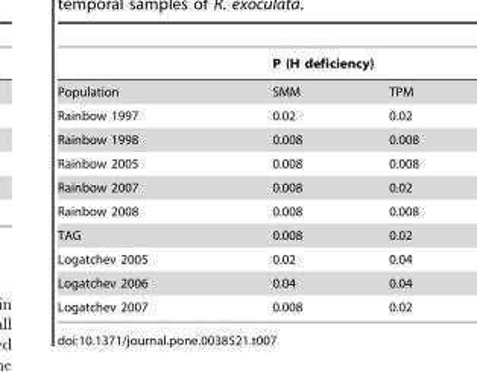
<table><thead><tr><td rowspan="2">Population</td><td colspan="2">P (H deficiency)</td></tr><tr><td>SMM</td><td>TPM</td></tr></thead><tbody><tr><td>Rainbow 1997</td><td>0.02</td><td>0.02</td></tr><tr><td>Rainbow 1998</td><td>0.008</td><td>0.008</td></tr><tr><td>Rainbow 2005</td><td>0.008</td><td>0.008</td></tr><tr><td>Rainbow 2007</td><td>0.008</td><td>0.02</td></tr><tr><td>Rainbow 2008</td><td>0.008</td><td>0.008</td></tr><tr><td>TAG</td><td>0.008</td><td>0.02</td></tr><tr><td>Logatchev 2005</td><td>0.02</td><td>0.04</td></tr><tr><td>Logatchev 2006</td><td>0.04</td><td>0.04</td></tr><tr><td>Logatchev 2007</td><td>0.008</td><td>0.02</td></tr></tbody></table>